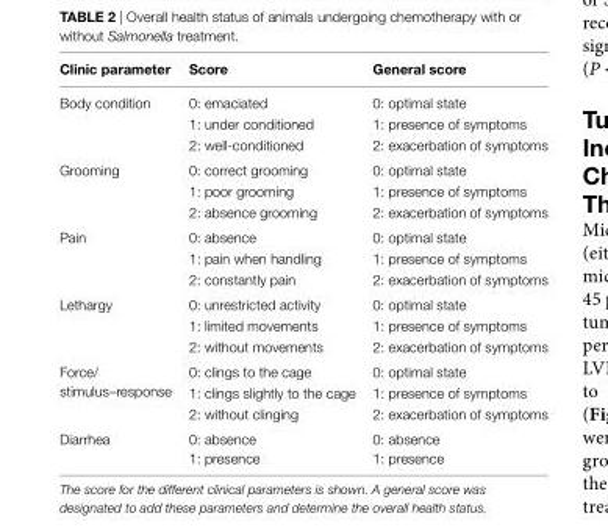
<table><thead><tr><td>clinic parameter</td><td>score</td><td>general score</td></tr></thead><tbody><tr><td rowspan="3">Body condition</td><td>0: emaciated</td><td>0: optimal state</td></tr><tr><td>1: under conditioned</td><td>1: presence of symptoms</td></tr><tr><td>2: well-conditioned</td><td>2: exacerbation of symptoms</td></tr><tr><td rowspan="3">Grooming</td><td>0: correct grooming</td><td>0: optimal state</td></tr><tr><td>1: poor grooming</td><td>1: presence of symptoms</td></tr><tr><td>2: absence grooming</td><td>2: exacerbation of symptoms</td></tr><tr><td rowspan="3">Pain</td><td>0: absence</td><td>0: optimal state</td></tr><tr><td>1: pain when handling</td><td>1: presence of symptoms</td></tr><tr><td>2: constantly pain</td><td>2: exacerbation of symptoms</td></tr><tr><td rowspan="3">Lethargy</td><td>0: unrestricted activity</td><td>0: optimal state</td></tr><tr><td>1: limited movements</td><td>1: presence of symptoms</td></tr><tr><td>2: without movements</td><td>2: exacerbation of symptoms</td></tr><tr><td rowspan="3">Force/ stimulus–response</td><td>0: clings to the cage</td><td>0: optimal state</td></tr><tr><td>1: clings slightly to the cage</td><td>1: presence of symptoms</td></tr><tr><td>2: without clinging</td><td>2: exacerbation of symptoms</td></tr><tr><td rowspan="2">Diarrhea</td><td>0: absence</td><td>0: absence</td></tr><tr><td>1: presence</td><td>1: presence</td></tr></tbody></table>